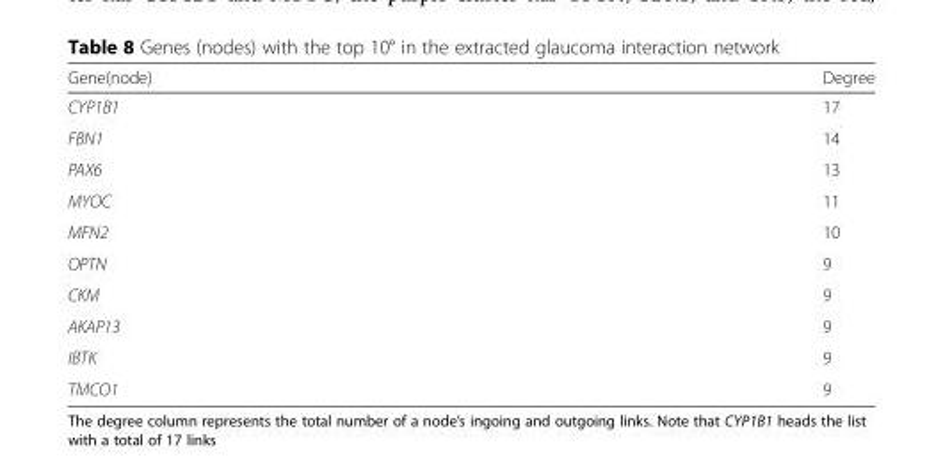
<table><thead><tr><td>Gene(node)</td><td>Degree</td></tr></thead><tbody><tr><td>CYP1B1</td><td>17</td></tr><tr><td>FBN1</td><td>14</td></tr><tr><td>PAX6</td><td>13</td></tr><tr><td>MYOC</td><td>11</td></tr><tr><td>MFN2</td><td>10</td></tr><tr><td>OPTN</td><td>9</td></tr><tr><td>CKM</td><td>9</td></tr><tr><td>AKAP13</td><td>9</td></tr><tr><td>IBTK</td><td>9</td></tr><tr><td>TMCO1</td><td>9</td></tr></tbody></table>